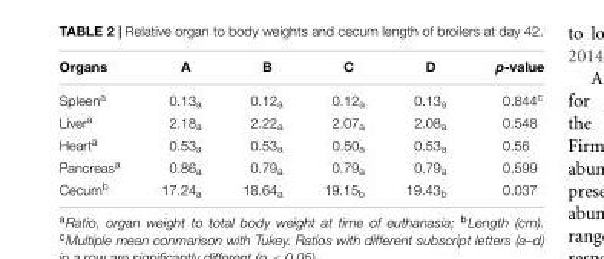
<table><thead><tr><td>Organs</td><td>A</td><td>B</td><td>C</td><td>D</td><td>p-value</td></tr></thead><tbody><tr><td>Spleen<sup>a</sup></td><td>0.13<sub>a</sub></td><td>0.12<sub>a</sub></td><td>0.12<sub>a</sub></td><td>0.13<sub>a</sub></td><td>0.844<sup>c</sup></td></tr><tr><td>Liver<sup>a</sup></td><td>2.18<sub>a</sub></td><td>2.22<sub>a</sub></td><td>2.07<sub>a</sub></td><td>2.08<sub>a</sub></td><td>0.548</td></tr><tr><td>Heart<sup>a</sup></td><td>0.53<sub>a</sub></td><td>0.53<sub>a</sub></td><td>0.50<sub>a</sub></td><td>0.53<sub>a</sub></td><td>0.56</td></tr><tr><td>Pancreas<sup>a</sup></td><td>0.86<sub>a</sub></td><td>0.79<sub>a</sub></td><td>0.79<sub>a</sub></td><td>0.79<sub>a</sub></td><td>0.599</td></tr><tr><td>Cecum<sup>b</sup></td><td>17.24<sub>a</sub></td><td>18.64<sub>a</sub></td><td>19.15<sub>b</sub></td><td>19.43<sub>b</sub></td><td>0.037</td></tr></tbody></table>